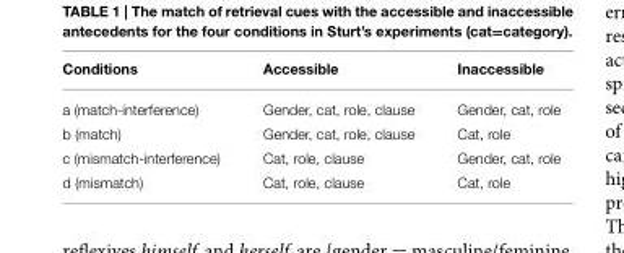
<table><thead><tr><td>Conditions</td><td>Accessible</td><td>Inaccessible</td></tr></thead><tbody><tr><td>a (match-interference)</td><td>Gender, cat, role, clause</td><td>Gender, cat, role</td></tr><tr><td>b (match)</td><td>Gender, cat, role, clause</td><td>Cat, role</td></tr><tr><td>c (mismatch-interference)</td><td>Cat, role, clause</td><td>Gender, cat, role</td></tr><tr><td>d (mismatch)</td><td>Cat, role, clause</td><td>Cat, role</td></tr></tbody></table>